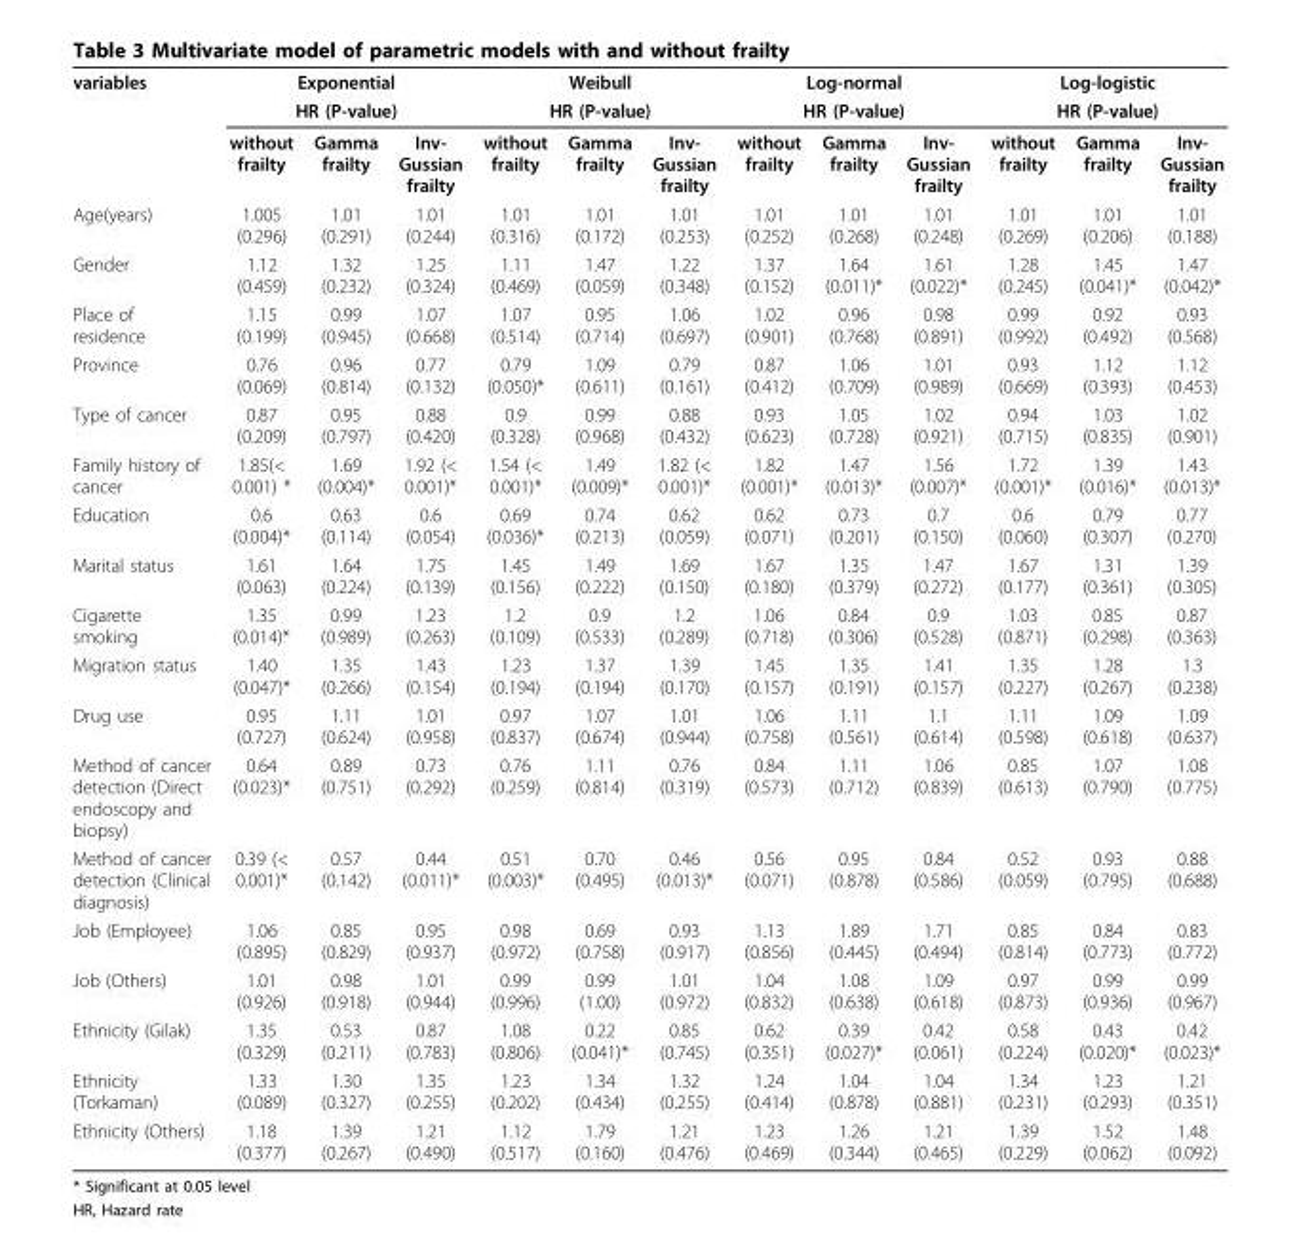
<table><tbody><tr><td rowspan="3">variables</td><td colspan="3">Exponential</td><td colspan="3">Weibull</td><td colspan="3">Log-normal</td><td colspan="3">Log-logistic</td></tr><tr><td colspan="3">HR (P-value)</td><td colspan="3">HR (P-value)</td><td colspan="3">HR (P-value)</td><td colspan="3">HR (P-value)</td></tr><tr><td>without frailty</td><td>Gamma frailty</td><td>Inv- Gussian frailty</td><td>without frailty</td><td>Gamma frailty</td><td>Inv- Gussian frailty</td><td>without frailty</td><td>Gamma frailty</td><td>Inv- Gussian frailty</td><td>without frailty</td><td>Gamma frailty</td><td>Inv- Gussian frailty</td></tr><tr><td>Age(years)</td><td>1.005 (0.296)</td><td>1.01 (0.291)</td><td>1.01 (0.244)</td><td>1.01 (0.316)</td><td>1.01 (0.172)</td><td>1.01 (0.253)</td><td>1.01 (0.252)</td><td>1.01 (0.268)</td><td>1.01 (0.248)</td><td>1.01 (0.269)</td><td>1.01 (0.206)</td><td>1.01 (0.188)</td></tr><tr><td>Gender</td><td>1.12 (0.459)</td><td>1.32 (0.232)</td><td>1.25 (0.324)</td><td>1.11 (0.469)</td><td>1.47 (0.059)</td><td>1.22 (0.348)</td><td>1.37 (0.152)</td><td>1.64 (0.011)*</td><td>1.61 (0.022)*</td><td>1.28 (0.245)</td><td>1.45 (0.041)*</td><td>1.47 (0.042)*</td></tr><tr><td>Place of residence</td><td>1.15 (0.199)</td><td>0.99 (0.945)</td><td>1.07 (0.668)</td><td>1.07 (0.514)</td><td>0.95 (0.714)</td><td>1.06 (0.697)</td><td>1.02 (0.901)</td><td>0.96 (0.768)</td><td>0.98 (0.891)</td><td>0.99 (0.992)</td><td>0.92 (0.492)</td><td>0.93 (0.568)</td></tr><tr><td>Province</td><td>0.76 (0.069)</td><td>0.96 (0.814)</td><td>0.77 (0.132)</td><td>0.79 (0.050)*</td><td>1.09 (0.611)</td><td>0.79 (0.161)</td><td>0.87 (0.412)</td><td>1.06 (0.709)</td><td>1.01 (0.989)</td><td>0.93 (0.669)</td><td>1.12 (0.393)</td><td>1.12 (0.453)</td></tr><tr><td>Type of cancer</td><td>0.87 (0.209)</td><td>0.95 (0.797)</td><td>0.88 (0.420)</td><td>0.9 (0.328)</td><td>0.99 (0.968)</td><td>0.88 (0.432)</td><td>0.93 (0.623)</td><td>1.05 (0.728)</td><td>1.02 (0.921)</td><td>0.94 (0.715)</td><td>1.03 (0.835)</td><td>1.02 (0.901)</td></tr><tr><td>Family history of cancer</td><td>1.85(&lt; 0.001) *</td><td>1.69 (0.004)*</td><td>1.92 (&lt; 0.001)*</td><td>1.54 (&lt; 0.001)*</td><td>1.49 (0.009)*</td><td>1.82 (&lt; 0.001)*</td><td>1.82 (0.001)*</td><td>1.47 (0.013)*</td><td>1.56 (0.007)*</td><td>1.72 (0.001)*</td><td>1.39 (0.016)*</td><td>1.43 (0.013)*</td></tr><tr><td>Education</td><td>0.6 (0.004)*</td><td>0.63 (0.114)</td><td>0.6 (0.054)</td><td>0.69 (0.036)*</td><td>0.74 (0.213)</td><td>0.62 (0.059)</td><td>0.62 (0.071)</td><td>0.73 (0.201)</td><td>0.7 (0.150)</td><td>0.6 (0.060)</td><td>0.79 (0.307)</td><td>0.77 (0.270)</td></tr><tr><td>Marital status</td><td>1.61 (0.063)</td><td>1.64 (0.224)</td><td>1.75 (0.139)</td><td>1.45 (0.156)</td><td>1.49 (0.222)</td><td>1.69 (0.150)</td><td>1.67 (0.180)</td><td>1.35 (0.379)</td><td>1.47 (0.272)</td><td>1.67 (0.177)</td><td>1.31 (0.361)</td><td>1.39 (0.305)</td></tr><tr><td>Cigarette smoking</td><td>1.35 (0.014)*</td><td>0.99 (0.989)</td><td>1.23 (0.263)</td><td>1.2 (0.109)</td><td>0.9 (0.533)</td><td>1.2 (0.289)</td><td>1.06 (0.718)</td><td>0.84 (0.306)</td><td>0.9 (0.528)</td><td>1.03 (0.871)</td><td>0.85 (0.298)</td><td>0.87 (0.363)</td></tr><tr><td>Migration status</td><td>1.40 (0.047)*</td><td>1.35 (0.266)</td><td>1.43 (0.154)</td><td>1.23 (0.194)</td><td>1.37 (0.194)</td><td>1.39 (0.170)</td><td>1.45 (0.157)</td><td>1.35 (0.191)</td><td>1.41 (0.157)</td><td>1.35 (0.227)</td><td>1.28 (0.267)</td><td>1.3 (0.238)</td></tr><tr><td>Drug use</td><td>0.95 (0.727)</td><td>1.11 (0.624)</td><td>1.01 (0.958)</td><td>0.97 (0.837)</td><td>1.07 (0.674)</td><td>1.01 (0.944)</td><td>1.06 (0.758)</td><td>1.11 (0.561)</td><td>1.1 (0.614)</td><td>1.11 (0.598)</td><td>1.09 (0.618)</td><td>1.09 (0.637)</td></tr><tr><td>Method of cancer detection (Direct endoscopy and biopsy)</td><td>0.64 (0.023)*</td><td>0.89 (0.751)</td><td>0.73 (0.292)</td><td>0.76 (0.259)</td><td>1.11 (0.814)</td><td>0.76 (0.319)</td><td>0.84 (0.573)</td><td>1.11 (0.712)</td><td>1.06 (0.839)</td><td>0.85 (0.613)</td><td>1.07 (0.790)</td><td>1.08 (0.775)</td></tr><tr><td>Method of cancer detection (Clinical diagnosis)</td><td>0.39 (&lt; 0.001)*</td><td>0.57 (0.142)</td><td>0.44 (0.011)*</td><td>0.51 (0.003)*</td><td>0.70 (0.495)</td><td>0.46 (0.013)*</td><td>0.56 (0.071)</td><td>0.95 (0.878)</td><td>0.84 (0.586)</td><td>0.52 (0.059)</td><td>0.93 (0.795)</td><td>0.88 (0.688)</td></tr><tr><td>Job (Employee)</td><td>1.06 (0.895)</td><td>0.85 (0.829)</td><td>0.95 (0.937)</td><td>0.98 (0.972)</td><td>0.69 (0.758)</td><td>0.93 (0.917)</td><td>1.13 (0.856)</td><td>1.89 (0.445)</td><td>1.71 (0.494)</td><td>0.85 (0.814)</td><td>0.84 (0.773)</td><td>0.83 (0.772)</td></tr><tr><td>Job (Others)</td><td>1.01 (0.926)</td><td>0.98 (0.918)</td><td>1.01 (0.944)</td><td>0.99 (0.996)</td><td>0.99 (1.00)</td><td>1.01 (0.972)</td><td>1.04 (0.832)</td><td>1.08 (0.638)</td><td>1.09 (0.618)</td><td>0.97 (0.873)</td><td>0.99 (0.936)</td><td>0.99 (0.967)</td></tr><tr><td>Ethnicity (Gilak)</td><td>1.35 (0.329)</td><td>0.53 (0.211)</td><td>0.87 (0.783)</td><td>1.08 (0.806)</td><td>0.22 (0.041)*</td><td>0.85 (0.745)</td><td>0.62 (0.351)</td><td>0.39 (0.027)*</td><td>0.42 (0.061)</td><td>0.58 (0.224)</td><td>0.43 (0.020)*</td><td>0.42 (0.023)*</td></tr><tr><td>Ethnicity (Torkaman)</td><td>1.33 (0.089)</td><td>1.30 (0.327)</td><td>1.35 (0.255)</td><td>1.23 (0.202)</td><td>1.34 (0.434)</td><td>1.32 (0.255)</td><td>1.24 (0.414)</td><td>1.04 (0.878)</td><td>1.04 (0.881)</td><td>1.34 (0.231)</td><td>1.23 (0.293)</td><td>1.21 (0.351)</td></tr><tr><td>Ethnicity (Others)</td><td>1.18 (0.377)</td><td>1.39 (0.267)</td><td>1.21 (0.490)</td><td>1.12 (0.517)</td><td>1.79 (0.160)</td><td>1.21 (0.476)</td><td>1.23 (0.469)</td><td>1.26 (0.344)</td><td>1.21 (0.465)</td><td>1.39 (0.229)</td><td>1.52 (0.062)</td><td>1.48 (0.092)</td></tr></tbody></table>